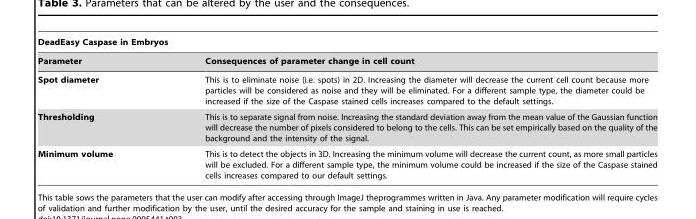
<table><thead><tr><td colspan="2">DeadEasy Caspase in Embryos</td></tr><tr><td>Parameter</td><td>Consequences of parameter change in cell count</td></tr></thead><tbody><tr><td>Spot diameter</td><td>This is to eliminate noise (i.e. spots) in 2D. Increasing the diameter will decrease the current cell count because more particles will be considered as noise and they will be eliminated. For a different sample type, the diameter could be increased if the size of the Caspase stained cells increases compared to the default settings.</td></tr><tr><td>Thresholding</td><td>This is to separate signal from noise. Increasing the standard deviation away from the mean value of the Gaussian function will decrease the number of pixels considered to belong to the cells. This can be set empirically based on the quality of the background and the intensity of the signal.</td></tr><tr><td>Minimum volume</td><td>This is to detect the objects in 3D. Increasing the minimum volume will decrease the current count, as more small particles will be excluded. For a different sample type, the minimum volume could be increased if the size of the Caspase stained cells increases compared to our default settings.</td></tr></tbody></table>